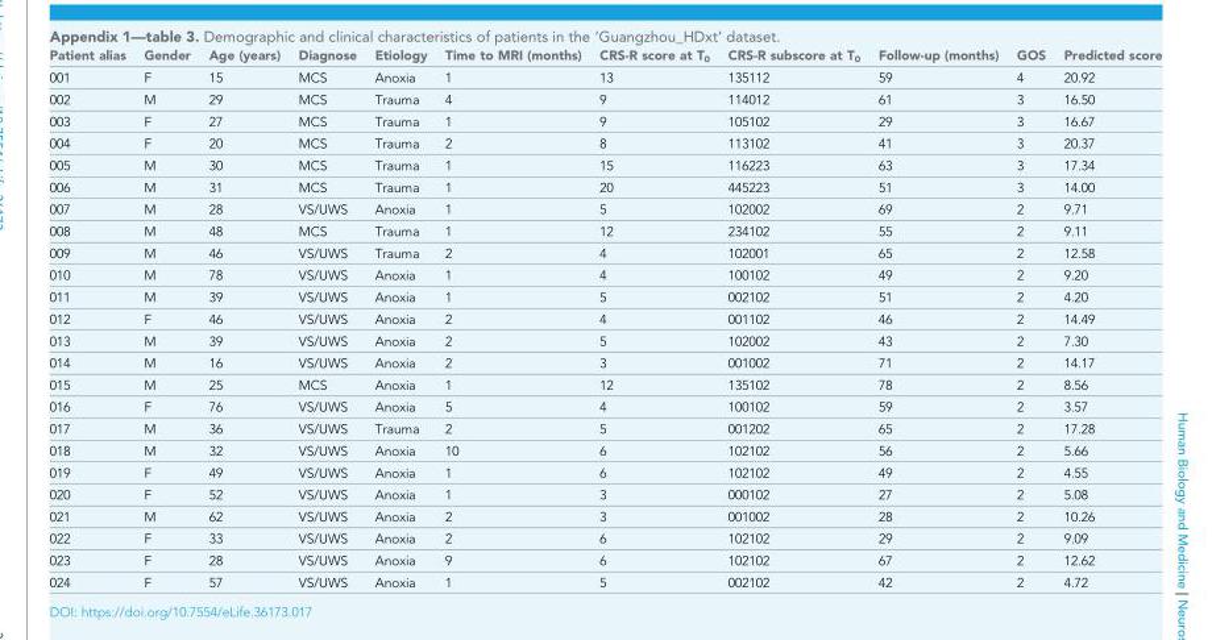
<table><thead><tr><td>Patient alias</td><td>Gender</td><td>Age (years)</td><td>Diagnose</td><td>Etiology</td><td>Time to MRI (months)</td><td>CRS-R score at T<sub>0</sub></td><td>CRS-R subscore at T<sub>0</sub></td><td>Follow-up (months)</td><td>GOS</td><td>Predicted score</td></tr></thead><tbody><tr><td>001</td><td>F</td><td>15</td><td>MCS</td><td>Anoxia</td><td>1</td><td>13</td><td>135112</td><td>59</td><td>4</td><td>20.92</td></tr><tr><td>002</td><td>M</td><td>29</td><td>MCS</td><td>Trauma</td><td>4</td><td>9</td><td>114012</td><td>61</td><td>3</td><td>16.50</td></tr><tr><td>003</td><td>F</td><td>27</td><td>MCS</td><td>Trauma</td><td>1</td><td>9</td><td>105102</td><td>29</td><td>3</td><td>16.67</td></tr><tr><td>004</td><td>F</td><td>20</td><td>MCS</td><td>Trauma</td><td>2</td><td>8</td><td>113102</td><td>41</td><td>3</td><td>20.37</td></tr><tr><td>005</td><td>M</td><td>30</td><td>MCS</td><td>Trauma</td><td>1</td><td>15</td><td>116223</td><td>63</td><td>3</td><td>17.34</td></tr><tr><td>006</td><td>M</td><td>31</td><td>MCS</td><td>Trauma</td><td>1</td><td>20</td><td>445223</td><td>51</td><td>3</td><td>14.00</td></tr><tr><td>007</td><td>M</td><td>28</td><td>VS/UWS</td><td>Anoxia</td><td>1</td><td>5</td><td>102002</td><td>69</td><td>2</td><td>9.71</td></tr><tr><td>008</td><td>M</td><td>48</td><td>MCS</td><td>Trauma</td><td>1</td><td>12</td><td>234102</td><td>55</td><td>2</td><td>9.11</td></tr><tr><td>009</td><td>M</td><td>46</td><td>VS/UWS</td><td>Trauma</td><td>2</td><td>4</td><td>102001</td><td>65</td><td>2</td><td>12.58</td></tr><tr><td>010</td><td>M</td><td>78</td><td>VS/UWS</td><td>Anoxia</td><td>1</td><td>4</td><td>100102</td><td>49</td><td>2</td><td>9.20</td></tr><tr><td>011</td><td>M</td><td>39</td><td>VS/UWS</td><td>Anoxia</td><td>1</td><td>5</td><td>002102</td><td>51</td><td>2</td><td>4.20</td></tr><tr><td>012</td><td>F</td><td>46</td><td>VS/UWS</td><td>Anoxia</td><td>2</td><td>4</td><td>001102</td><td>46</td><td>2</td><td>14.49</td></tr><tr><td>013</td><td>M</td><td>39</td><td>VS/UWS</td><td>Anoxia</td><td>2</td><td>5</td><td>102002</td><td>43</td><td>2</td><td>7.30</td></tr><tr><td>014</td><td>M</td><td>16</td><td>VS/UWS</td><td>Anoxia</td><td>2</td><td>3</td><td>001002</td><td>71</td><td>2</td><td>14.17</td></tr><tr><td>015</td><td>M</td><td>25</td><td>MCS</td><td>Anoxia</td><td>1</td><td>12</td><td>135102</td><td>78</td><td>2</td><td>8.56</td></tr><tr><td>016</td><td>F</td><td>76</td><td>VS/UWS</td><td>Anoxia</td><td>5</td><td>4</td><td>100102</td><td>59</td><td>2</td><td>3.57</td></tr><tr><td>017</td><td>M</td><td>36</td><td>VS/UWS</td><td>Trauma</td><td>2</td><td>5</td><td>001202</td><td>65</td><td>2</td><td>17.28</td></tr><tr><td>018</td><td>M</td><td>32</td><td>VS/UWS</td><td>Anoxia</td><td>10</td><td>6</td><td>102102</td><td>56</td><td>2</td><td>5.66</td></tr><tr><td>019</td><td>F</td><td>49</td><td>VS/UWS</td><td>Anoxia</td><td>1</td><td>6</td><td>102102</td><td>49</td><td>2</td><td>4.55</td></tr><tr><td>020</td><td>F</td><td>52</td><td>VS/UWS</td><td>Anoxia</td><td>1</td><td>3</td><td>000102</td><td>27</td><td>2</td><td>5.08</td></tr><tr><td>021</td><td>M</td><td>62</td><td>VS/UWS</td><td>Anoxia</td><td>2</td><td>3</td><td>001002</td><td>28</td><td>2</td><td>10.26</td></tr><tr><td>022</td><td>F</td><td>33</td><td>VS/UWS</td><td>Anoxia</td><td>2</td><td>6</td><td>102102</td><td>29</td><td>2</td><td>9.09</td></tr><tr><td>023</td><td>F</td><td>28</td><td>VS/UWS</td><td>Anoxia</td><td>9</td><td>6</td><td>102102</td><td>67</td><td>2</td><td>12.62</td></tr><tr><td>024</td><td>F</td><td>57</td><td>VS/UWS</td><td>Anoxia</td><td>1</td><td>5</td><td>002102</td><td>42</td><td>2</td><td>4.72</td></tr></tbody></table>